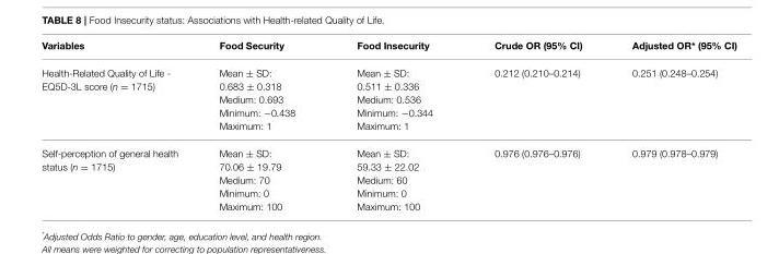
<table><thead><tr><td>Variables</td><td>Food Security</td><td>Food Insecurity</td><td>Crude OR (95% CI)</td><td>Adjusted OR* (95% CI)</td></tr></thead><tbody><tr><td>Health-Related Quality of Life - EQ5D-3L score (n = 1715)</td><td>Mean ± SD: 0.683 ± 0.318 Medium: 0.693 Minimum: −0.438 Maximum: 1</td><td>Mean ± SD: 0.511 ± 0.336 Medium: 0.536 Minimum: −0.344 Maximum: 1</td><td>0.212 (0.210–0.214)</td><td>0.251 (0.248–0.254)</td></tr><tr><td>Self-perception of general health status (n = 1715)</td><td>Mean ± SD: 70.06 ± 19.79 Medium: 70 Minimum: 0 Maximum: 100</td><td>Mean ± SD: 59.33 ± 22.02 Medium: 60 Minimum: 0 Maximum: 100</td><td>0.976 (0.976–0.976)</td><td>0.979 (0.978–0.979)</td></tr></tbody></table>